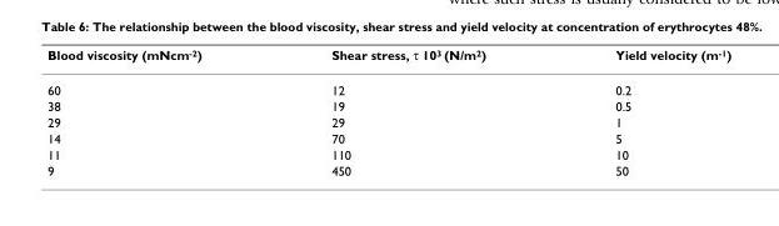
<table><thead><tr><td>Blood viscosity (mNcm<sup>-2</sup>)</td><td>Shear stress, τ 10<sup>3</sup> (N/m<sup>2</sup>)</td><td>Yield velocity (m<sup>-1</sup>)</td></tr></thead><tbody><tr><td>60</td><td>12</td><td>0.2</td></tr><tr><td>38</td><td>19</td><td>0.5</td></tr><tr><td>29</td><td>29</td><td>1</td></tr><tr><td>14</td><td>70</td><td>5</td></tr><tr><td>11</td><td>110</td><td>10</td></tr><tr><td>9</td><td>450</td><td>50</td></tr></tbody></table>